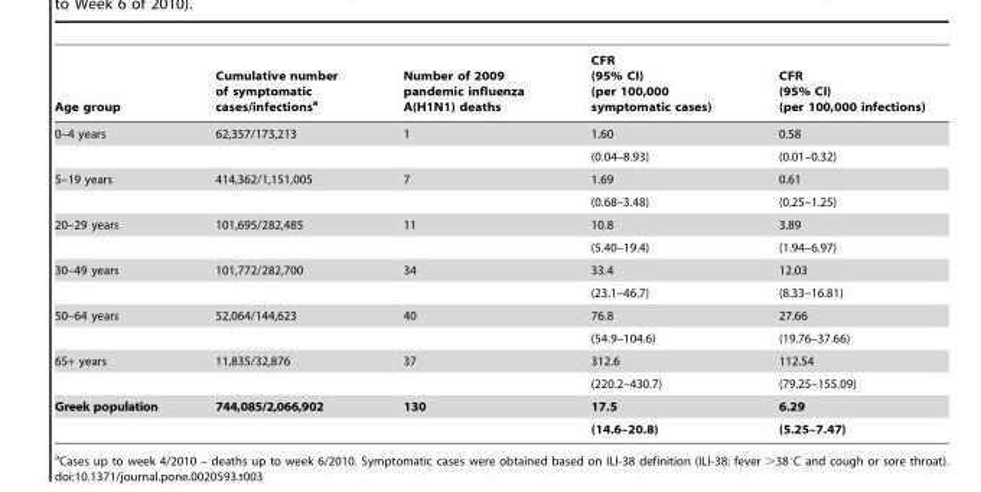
<table><thead><tr><td>Age group</td><td>Cumulative number of symptomatic cases/infections<sup>a</sup></td><td>Number of 2009 pandemic influenza A(H1N1) deaths</td><td>CFR (95% CI) (per 100,000 symptomatic cases)</td><td>CFR (95% CI) (per 100,000 infections)</td></tr></thead><tbody><tr><td rowspan="2">0–4 years</td><td>62,357/173,213</td><td>1</td><td>1.60</td><td>0.58</td></tr><tr><td></td><td></td><td>(0.04–8.93)</td><td>(0.01–0.32)</td></tr><tr><td rowspan="2">5–19 years</td><td>414,362/1,151,005</td><td>7</td><td>1.69</td><td>0.61</td></tr><tr><td></td><td></td><td>(0.68–3.48)</td><td>(0.25–1.25)</td></tr><tr><td rowspan="2">20–29 years</td><td>101,695/282,485</td><td>11</td><td>10.8</td><td>3.89</td></tr><tr><td></td><td></td><td>(5.40–19.4)</td><td>(1.94–6.97)</td></tr><tr><td rowspan="2">30–49 years</td><td>101,772/282,700</td><td>34</td><td>33.4</td><td>12.03</td></tr><tr><td></td><td></td><td>(23.1–46.7)</td><td>(8.33–16.81)</td></tr><tr><td rowspan="2">50–64 years</td><td>52,064/144,623</td><td>40</td><td>76.8</td><td>27.66</td></tr><tr><td></td><td></td><td>(54.9–104.6)</td><td>(19.76–37.66)</td></tr><tr><td rowspan="2">65+ years</td><td>11,835/32,876</td><td>37</td><td>312.6</td><td>112.54</td></tr><tr><td></td><td></td><td>(220.2–430.7)</td><td>(79.25–155.09)</td></tr><tr><td rowspan="2">Greek population</td><td>744,085/2,066,902</td><td>130</td><td>17.5</td><td>6.29</td></tr><tr><td></td><td></td><td>(14.6–20.8)</td><td>(5.25–7.47)</td></tr></tbody></table>